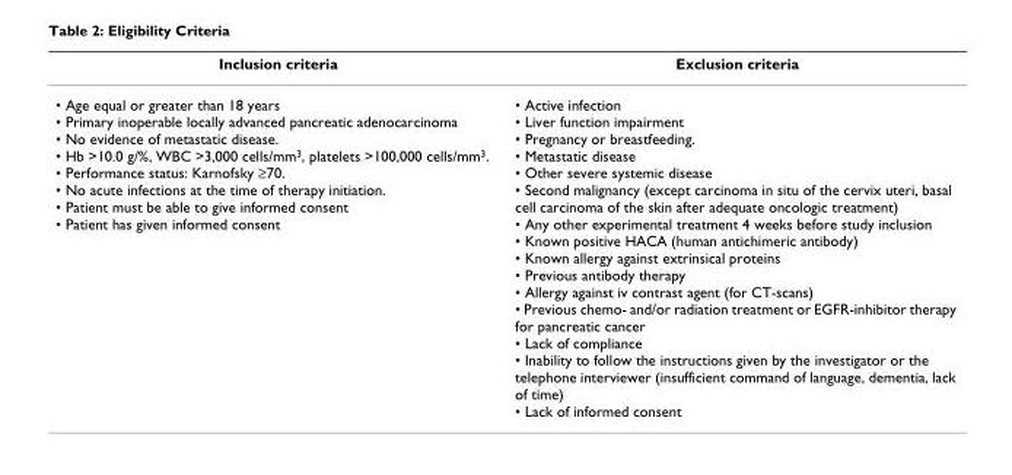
<table><thead><tr><td>Inclusion criteria</td><td>Exclusion criteria</td></tr></thead><tbody><tr><td>• Age equal or greater than 18 years • Primary inoperable locally advanced pancreatic adenocarcinoma • No evidence of metastatic disease. • Hb &gt;10.0 g/%, WBC &gt;3,000 cells/mm<sup>3</sup>, platelets &gt;100,000 cells/mm<sup>3</sup>. • Performance status: Karnofsky ≥70. • No acute infections at the time of therapy initiation. • Patient must be able to give informed consent • Patient has given informed consent</td><td>• Active infection • Liver function impairment • Pregnancy or breastfeeding. • Metastatic disease • Other severe systemic disease • Second malignancy (except carcinoma in situ of the cervix uteri, basal cell carcinoma of the skin after adequate oncologic treatment) • Any other experimental treatment 4 weeks before study inclusion • Known positive HACA (human antichimeric antibody) • Known allergy against extrinsical proteins • Previous antibody therapy • Allergy against iv contrast agent (for CT-scans) • Previous chemo- and/or radiation treatment or EGFR-inhibitor therapy for pancreatic cancer • Lack of compliance • Inability to follow the instructions given by the investigator or the telephone interviewer (insufficient command of language, dementia, lack of time) • Lack of informed consent</td></tr></tbody></table>